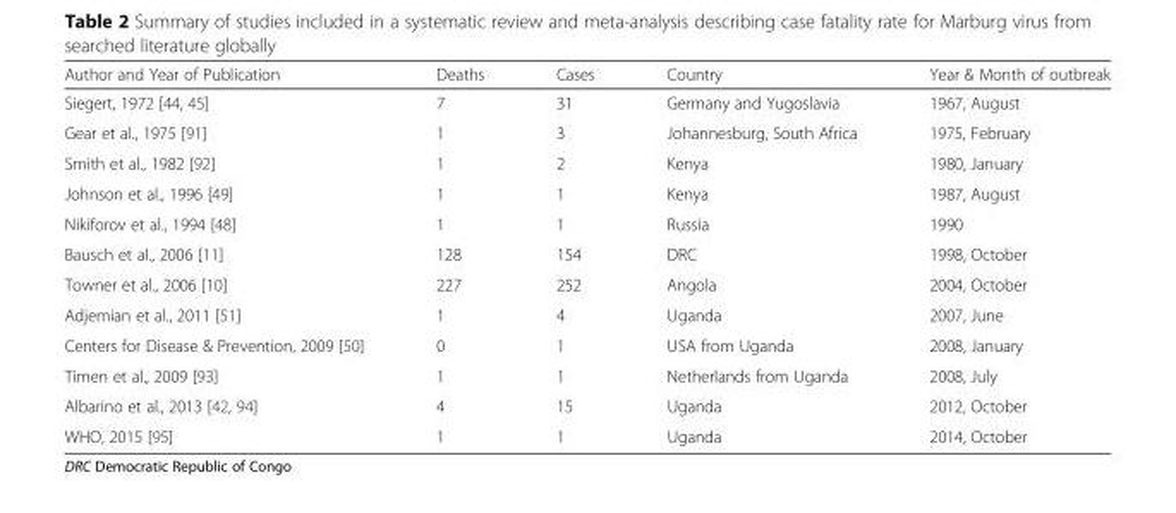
<table><thead><tr><td>Author and Year of Publication</td><td>Deaths</td><td>Cases</td><td>Country</td><td>Year &amp; Month of outbreak</td></tr></thead><tbody><tr><td>Siegert, 1972 [44, 45]</td><td>7</td><td>31</td><td>Germany and Yugoslavia</td><td>1967, August</td></tr><tr><td>Gear et al., 1975 [91]</td><td>1</td><td>3</td><td>Johannesburg, South Africa</td><td>1975, February</td></tr><tr><td>Smith et al., 1982 [92]</td><td>1</td><td>2</td><td>Kenya</td><td>1980, January</td></tr><tr><td>Johnson et al., 1996 [49]</td><td>1</td><td>1</td><td>Kenya</td><td>1987, August</td></tr><tr><td>Nikiforov et al., 1994 [48]</td><td>1</td><td>1</td><td>Russia</td><td>1990</td></tr><tr><td>Bausch et al., 2006 [11]</td><td>128</td><td>154</td><td>DRC</td><td>1998, October</td></tr><tr><td>Towner et al., 2006 [10]</td><td>227</td><td>252</td><td>Angola</td><td>2004, October</td></tr><tr><td>Adjemian et al., 2011 [51]</td><td>1</td><td>4</td><td>Uganda</td><td>2007, June</td></tr><tr><td>Centers for Disease &amp; Prevention, 2009 [50]</td><td>0</td><td>1</td><td>USA from Uganda</td><td>2008, January</td></tr><tr><td>Timen et al., 2009 [93]</td><td>1</td><td>1</td><td>Netherlands from Uganda</td><td>2008, July</td></tr><tr><td>Albarino et al., 2013 [42, 94]</td><td>4</td><td>15</td><td>Uganda</td><td>2012, October</td></tr><tr><td>WHO, 2015 [95]</td><td>1</td><td>1</td><td>Uganda</td><td>2014, October</td></tr></tbody></table>